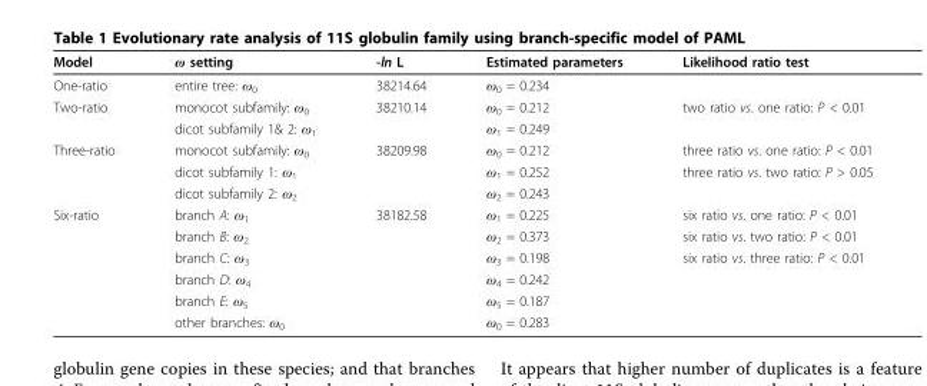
<table><thead><tr><td>Model</td><td>ω setting</td><td>-ln L</td><td>Estimated parameters</td><td>Likelihood ratio test</td></tr></thead><tbody><tr><td>One-ratio</td><td>entire tree: ω<sub>0</sub></td><td>38214.64</td><td>ω<sub>0</sub> = 0.234</td><td></td></tr><tr><td rowspan="2">Two-ratio</td><td>monocot subfamily: ω<sub>0</sub></td><td>38210.14</td><td>ω<sub>0</sub> = 0.212</td><td>two ratio vs. one ratio: P &lt; 0.01</td></tr><tr><td>dicot subfamily 1&amp; 2: ω<sub>1</sub></td><td></td><td>ω<sub>1</sub> = 0.249</td><td></td></tr><tr><td rowspan="3">Three-ratio</td><td>monocot subfamily: ω<sub>0</sub></td><td>38209.98</td><td>ω<sub>0</sub> = 0.212</td><td>three ratio vs. one ratio: P &lt; 0.01</td></tr><tr><td>dicot subfamily 1: ω<sub>1</sub></td><td></td><td>ω<sub>1</sub> = 0.252</td><td>three ratio vs. two ratio: P &gt; 0.05</td></tr><tr><td>dicot subfamily 2: ω<sub>2</sub></td><td></td><td>ω<sub>2</sub> = 0.243</td><td></td></tr><tr><td rowspan="6">Six-ratio</td><td>branch A: ω<sub>1</sub></td><td>38182.58</td><td>ω<sub>1</sub> = 0.225</td><td>six ratio vs. one ratio: P &lt; 0.01</td></tr><tr><td>branch B: ω<sub>2</sub></td><td></td><td>ω<sub>2</sub> = 0.373</td><td>six ratio vs. two ratio: P &lt; 0.01</td></tr><tr><td>branch C: ω<sub>3</sub></td><td></td><td>ω<sub>3</sub> = 0.198</td><td>six ratio vs. three ratio: P &lt; 0.01</td></tr><tr><td>branch D: ω<sub>4</sub></td><td></td><td>ω<sub>4</sub> = 0.242</td><td></td></tr><tr><td>branch E: ω<sub>5</sub></td><td></td><td>ω<sub>5</sub> = 0.187</td><td></td></tr><tr><td>other branches: ω<sub>0</sub></td><td></td><td>ω<sub>0</sub> = 0.283</td><td></td></tr></tbody></table>